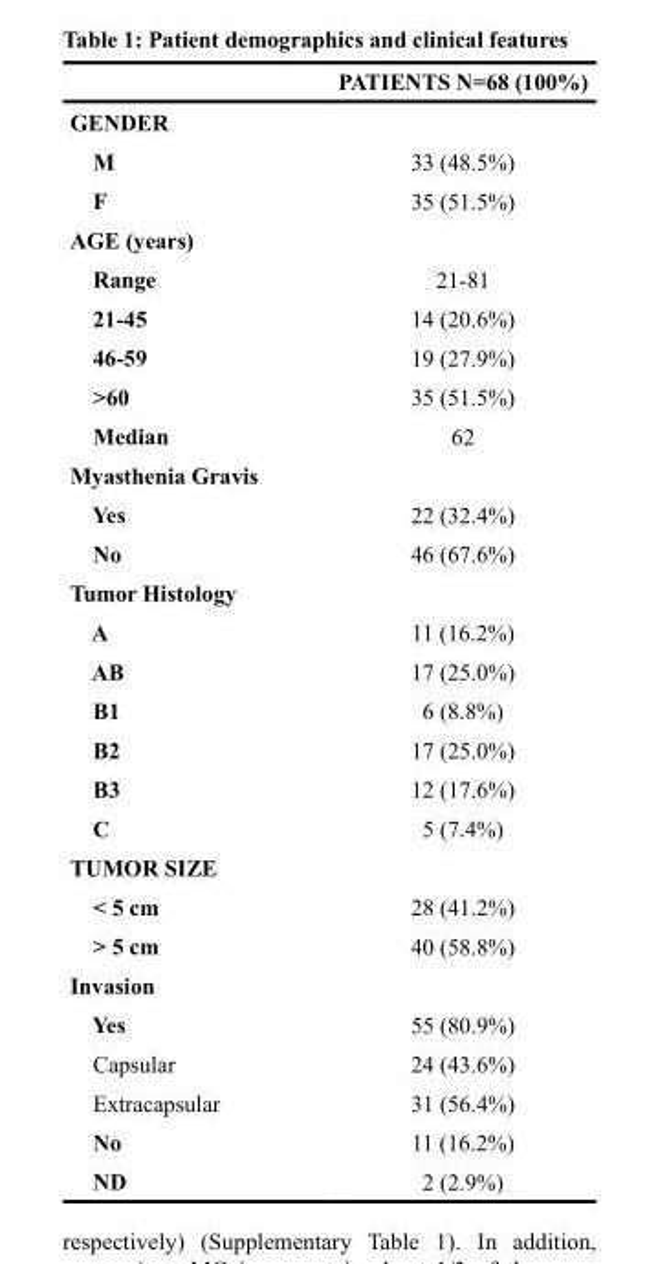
<table><thead><tr><td></td><td>PATIENTS N=68 (100%)</td></tr></thead><tbody><tr><td colspan="2">GENDER</td></tr><tr><td>M</td><td>33 (48.5%)</td></tr><tr><td>F</td><td>35 (51.5%)</td></tr><tr><td colspan="2">AGE (years)</td></tr><tr><td>Range</td><td>21-81</td></tr><tr><td>21-45</td><td>14 (20.6%)</td></tr><tr><td>46-59</td><td>19 (27.9%)</td></tr><tr><td>&gt;60</td><td>35 (51.5%)</td></tr><tr><td>Median</td><td>62</td></tr><tr><td colspan="2">Myasthenia Gravis</td></tr><tr><td>Yes</td><td>22 (32.4%)</td></tr><tr><td>No</td><td>46 (67.6%)</td></tr><tr><td colspan="2">Tumor Histology</td></tr><tr><td>A</td><td>11 (16.2%)</td></tr><tr><td>AB</td><td>17 (25.0%)</td></tr><tr><td>B1</td><td>6 (8.8%)</td></tr><tr><td>B2</td><td>17 (25.0%)</td></tr><tr><td>B3</td><td>12 (17.6%)</td></tr><tr><td>C</td><td>5 (7.4%)</td></tr><tr><td colspan="2">TUMOR SIZE</td></tr><tr><td>&lt; 5 cm</td><td>28 (41.2%)</td></tr><tr><td>&gt; 5 cm</td><td>40 (58.8%)</td></tr><tr><td colspan="2">Invasion</td></tr><tr><td>Yes</td><td>55 (80.9%)</td></tr><tr><td>Capsular</td><td>24 (43.6%)</td></tr><tr><td>Extracapsular</td><td>31 (56.4%)</td></tr><tr><td>No</td><td>11 (16.2%)</td></tr><tr><td>ND</td><td>2 (2.9%)</td></tr></tbody></table>